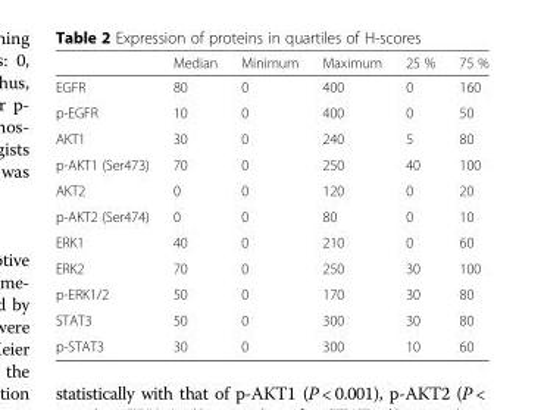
<table><thead><tr><td></td><td>Median</td><td>Minimum</td><td>Maximum</td><td>25 %</td><td>75 %</td></tr></thead><tbody><tr><td>EGFR</td><td>80</td><td>0</td><td>400</td><td>0</td><td>160</td></tr><tr><td>p-EGFR</td><td>10</td><td>0</td><td>400</td><td>0</td><td>50</td></tr><tr><td>AKT1</td><td>30</td><td>0</td><td>240</td><td>5</td><td>80</td></tr><tr><td>p-AKT1 (Ser473)</td><td>70</td><td>0</td><td>250</td><td>40</td><td>100</td></tr><tr><td>AKT2</td><td>0</td><td>0</td><td>120</td><td>0</td><td>20</td></tr><tr><td>p-AKT2 (Ser474)</td><td>0</td><td>0</td><td>80</td><td>0</td><td>10</td></tr><tr><td>ERK1</td><td>40</td><td>0</td><td>210</td><td>0</td><td>60</td></tr><tr><td>ERK2</td><td>70</td><td>0</td><td>250</td><td>30</td><td>100</td></tr><tr><td>p-ERK1/2</td><td>50</td><td>0</td><td>170</td><td>30</td><td>80</td></tr><tr><td>STAT3</td><td>50</td><td>0</td><td>300</td><td>30</td><td>80</td></tr><tr><td>p-STAT3</td><td>30</td><td>0</td><td>300</td><td>10</td><td>60</td></tr></tbody></table>